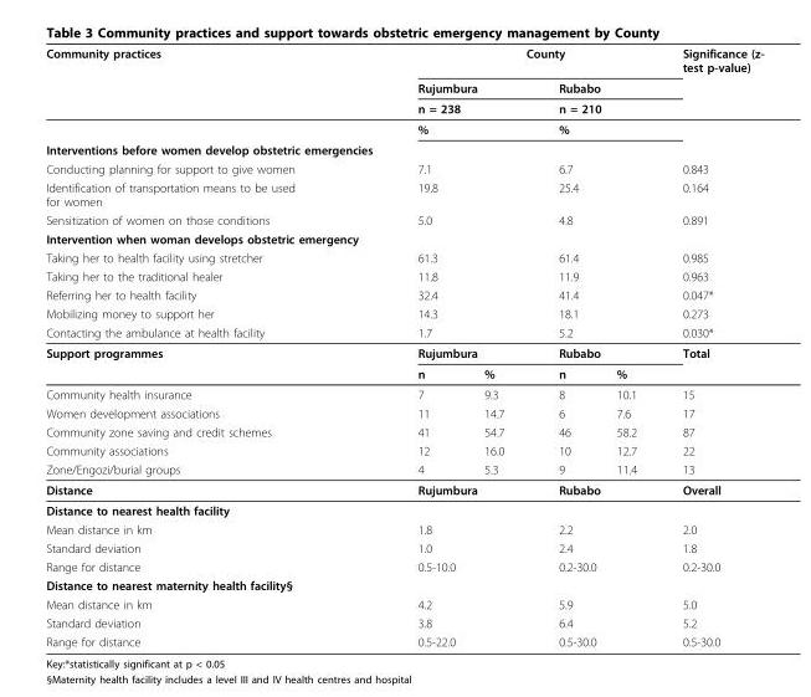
<table><thead><tr><td rowspan="5">Community practices Interventions before women develop obstetric emergencies</td><td colspan="4">County</td><td rowspan="5">Significance (z- test p-value)</td></tr><tr><td rowspan="3" colspan="2">Rujumbura n = 238 %</td><td rowspan="3" colspan="2">Rubabo n = 210 %</td></tr><tr></tr><tr></tr><tr><td></td><td></td><td></td><td></td></tr></thead><tbody><tr><td>Conducting planning for support to give women</td><td colspan="2">7.1</td><td colspan="2">6.7</td><td>0.843</td></tr><tr><td>Identification of transportation means to be used for women</td><td colspan="2">19.8</td><td colspan="2">25.4</td><td>0.164</td></tr><tr><td>Sensitization of women on those conditions</td><td colspan="2">5.0</td><td colspan="2">4.8</td><td>0.891</td></tr><tr><td colspan="6">Intervention when woman develops obstetric emergency</td></tr><tr><td>Taking her to health facility using stretcher</td><td colspan="2">61.3</td><td colspan="2">61.4</td><td>0.985</td></tr><tr><td>Taking her to the traditional healer</td><td colspan="2">11.8</td><td colspan="2">11.9</td><td>0.963</td></tr><tr><td>Referring her to health facility</td><td colspan="2">32.4</td><td colspan="2">41.4</td><td>0.047*</td></tr><tr><td>Mobilizing money to support her</td><td colspan="2">14.3</td><td colspan="2">18.1</td><td>0.273</td></tr><tr><td>Contacting the ambulance at health facility</td><td colspan="2">1.7</td><td colspan="2">5.2</td><td>0.030*</td></tr><tr><td rowspan="2">Support programmes</td><td colspan="2">Rujumbura</td><td colspan="2">Rubabo</td><td>Total</td></tr><tr><td>n</td><td>%</td><td>n</td><td>%</td><td></td></tr><tr><td>Community health insurance</td><td>7</td><td>9.3</td><td>8</td><td>10.1</td><td>15</td></tr><tr><td>Women development associations</td><td>11</td><td>14.7</td><td>6</td><td>7.6</td><td>17</td></tr><tr><td>Community zone saving and credit schemes</td><td>41</td><td>54.7</td><td>46</td><td>58.2</td><td>87</td></tr><tr><td>Community associations</td><td>12</td><td>16.0</td><td>10</td><td>12.7</td><td>22</td></tr><tr><td>Zone/Engozi/burial groups</td><td>4</td><td>5.3</td><td>9</td><td>11.4</td><td>13</td></tr><tr><td>Distance</td><td colspan="2">Rujumbura</td><td colspan="2">Rubabo</td><td>Overall</td></tr><tr><td colspan="6">Distance to nearest health facility</td></tr><tr><td>Mean distance in km</td><td colspan="2">1.8</td><td colspan="2">2.2</td><td>2.0</td></tr><tr><td>Standard deviation</td><td colspan="2">1.0</td><td colspan="2">2.4</td><td>1.8</td></tr><tr><td>Range for distance</td><td colspan="2">0.5-10.0</td><td colspan="2">0.2-30.0</td><td>0.2-30.0</td></tr><tr><td colspan="6">Distance to nearest maternity health facility§</td></tr><tr><td>Mean distance in km</td><td colspan="2">4.2</td><td colspan="2">5.9</td><td>5.0</td></tr><tr><td>Standard deviation</td><td colspan="2">3.8</td><td colspan="2">6.4</td><td>5.2</td></tr><tr><td>Range for distance</td><td colspan="2">0.5-22.0</td><td colspan="2">0.5-30.0</td><td>0.5-30.0</td></tr></tbody></table>